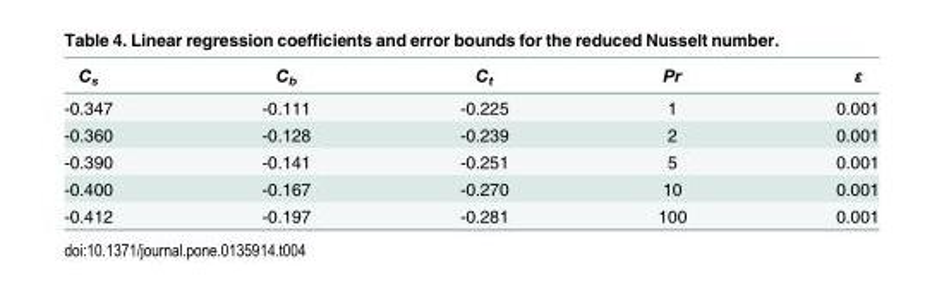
<table><thead><tr><td>C<sub>s</sub></td><td>C<sub>b</sub></td><td>C<sub>t</sub></td><td>Pr</td><td>ε</td></tr></thead><tbody><tr><td>-0.347</td><td>-0.111</td><td>-0.225</td><td>1</td><td>0.001</td></tr><tr><td>-0.360</td><td>-0.128</td><td>-0.239</td><td>2</td><td>0.001</td></tr><tr><td>-0.390</td><td>-0.141</td><td>-0.251</td><td>5</td><td>0.001</td></tr><tr><td>-0.400</td><td>-0.167</td><td>-0.270</td><td>10</td><td>0.001</td></tr><tr><td>-0.412</td><td>-0.197</td><td>-0.281</td><td>100</td><td>0.001</td></tr></tbody></table>